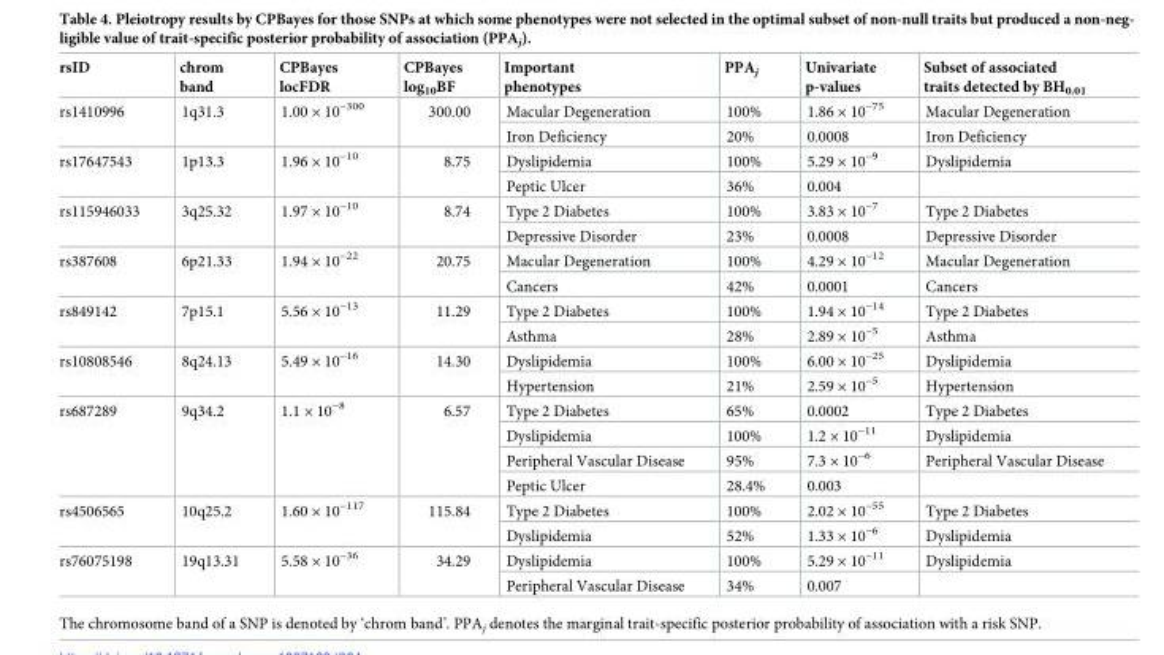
<table><thead><tr><td>rsID</td><td>chrom band</td><td>CPBayes locFDR</td><td>CPBayes log<sub>10</sub>BF</td><td>Important phenotypes</td><td>PPA<sub>j</sub></td><td>Univariate p-values</td><td>Subset of associated traits detected by BH<sub>0.01</sub></td></tr></thead><tbody><tr><td rowspan="2">rs1410996</td><td rowspan="2">1q31.3</td><td rowspan="2">1.00 × 10<sup>−300</sup></td><td rowspan="2">300.00</td><td>Macular Degeneration</td><td>100%</td><td>1.86 × 10<sup>−75</sup></td><td>Macular Degeneration</td></tr><tr><td>Iron Deficiency</td><td>20%</td><td>0.0008</td><td>Iron Deficiency</td></tr><tr><td rowspan="2">rs17647543</td><td rowspan="2">1p13.3</td><td rowspan="2">1.96 × 10<sup>−10</sup></td><td rowspan="2">8.75</td><td>Dyslipidemia</td><td>100%</td><td>5.29 × 10<sup>−9</sup></td><td>Dyslipidemia</td></tr><tr><td>Peptic Ulcer</td><td>36%</td><td>0.004</td><td></td></tr><tr><td rowspan="2">rs115946033</td><td rowspan="2">3q25.32</td><td rowspan="2">1.97 × 10<sup>−10</sup></td><td rowspan="2">8.74</td><td>Type 2 Diabetes</td><td>100%</td><td>3.83 × 10<sup>−7</sup></td><td>Type 2 Diabetes</td></tr><tr><td>Depressive Disorder</td><td>23%</td><td>0.0008</td><td>Depressive Disorder</td></tr><tr><td rowspan="2">rs387608</td><td rowspan="2">6p21.33</td><td rowspan="2">1.94 × 10<sup>−22</sup></td><td rowspan="2">20.75</td><td>Macular Degeneration</td><td>100%</td><td>4.29 × 10<sup>−12</sup></td><td>Macular Degeneration</td></tr><tr><td>Cancers</td><td>42%</td><td>0.0001</td><td>Cancers</td></tr><tr><td rowspan="2">rs849142</td><td rowspan="2">7p15.1</td><td rowspan="2">5.56 × 10<sup>−13</sup></td><td rowspan="2">11.29</td><td>Type 2 Diabetes</td><td>100%</td><td>1.94 × 10<sup>−14</sup></td><td>Type 2 Diabetes</td></tr><tr><td>Asthma</td><td>28%</td><td>2.89 × 10<sup>−5</sup></td><td>Asthma</td></tr><tr><td rowspan="2">rs10808546</td><td rowspan="2">8q24.13</td><td rowspan="2">5.49 × 10<sup>−16</sup></td><td rowspan="2">14.30</td><td>Dyslipidemia</td><td>100%</td><td>6.00 × 10<sup>−25</sup></td><td>Dyslipidemia</td></tr><tr><td>Hypertension</td><td>21%</td><td>2.59 × 10<sup>−5</sup></td><td>Hypertension</td></tr><tr><td rowspan="4">rs687289</td><td rowspan="4">9q34.2</td><td rowspan="4">1.1 × 10<sup>−8</sup></td><td rowspan="4">6.57</td><td>Type 2 Diabetes</td><td>65%</td><td>0.0002</td><td>Type 2 Diabetes</td></tr><tr><td>Dyslipidemia</td><td>100%</td><td>1.2 × 10<sup>−11</sup></td><td>Dyslipidemia</td></tr><tr><td>Peripheral Vascular Disease</td><td>95%</td><td>7.3 × 10<sup>−6</sup></td><td>Peripheral Vascular Disease</td></tr><tr><td>Peptic Ulcer</td><td>28.4%</td><td>0.003</td><td></td></tr><tr><td rowspan="2">rs4506565</td><td rowspan="2">10q25.2</td><td rowspan="2">1.60 × 10<sup>−117</sup></td><td rowspan="2">115.84</td><td>Type 2 Diabetes</td><td>100%</td><td>2.02 × 10<sup>−55</sup></td><td>Type 2 Diabetes</td></tr><tr><td>Dyslipidemia</td><td>52%</td><td>1.33 × 10<sup>−6</sup></td><td>Dyslipidemia</td></tr><tr><td rowspan="2">rs76075198</td><td rowspan="2">19q13.31</td><td rowspan="2">5.58 × 10<sup>−36</sup></td><td rowspan="2">34.29</td><td>Dyslipidemia</td><td>100%</td><td>5.29 × 10<sup>−11</sup></td><td>Dyslipidemia</td></tr><tr><td>Peripheral Vascular Disease</td><td>34%</td><td>0.007</td><td></td></tr></tbody></table>